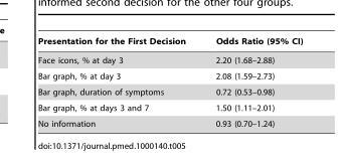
<table><thead><tr><td>Presentation for the First Decision</td><td>Odds Ratio (95% CI)</td></tr></thead><tbody><tr><td>Face icons, % at day 3</td><td>2.20 (1.68–2.88)</td></tr><tr><td>Bar graph, % at day 3</td><td>2.08 (1.59–2.73)</td></tr><tr><td>Bar graph, duration of symptoms</td><td>0.72 (0.53–0.98)</td></tr><tr><td>Bar graph, % at days 3 and 7</td><td>1.50 (1.11–2.01)</td></tr><tr><td>No information</td><td>0.93 (0.70–1.24)</td></tr></tbody></table>